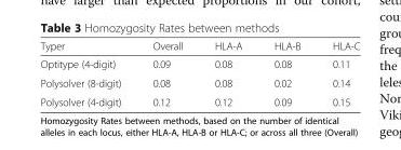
<table><thead><tr><td>Typer</td><td>Overall</td><td>HLA-A</td><td>HLA-B</td><td>HLA-C</td></tr></thead><tbody><tr><td>Optitype (4-digit)</td><td>0.09</td><td>0.08</td><td>0.08</td><td>0.11</td></tr><tr><td>Polysolver (8-digit)</td><td>0.08</td><td>0.08</td><td>0.02</td><td>0.14</td></tr><tr><td>Polysolver (4-digit)</td><td>0.12</td><td>0.12</td><td>0.09</td><td>0.15</td></tr></tbody></table>